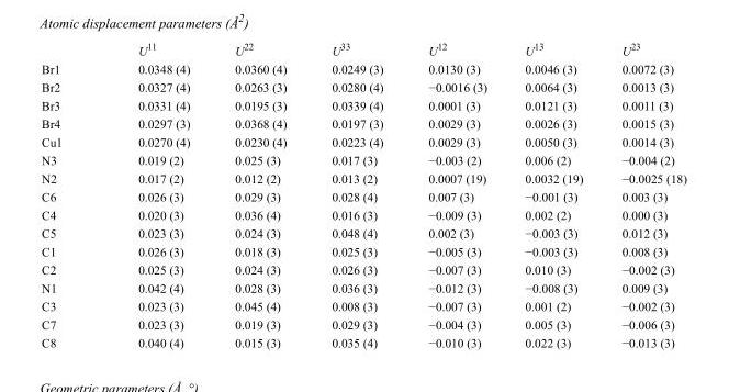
<table><thead><tr><td></td><td>U<sup>11</sup></td><td>U<sup>22</sup></td><td>U<sup>33</sup></td><td>U<sup>12</sup></td><td>U<sup>13</sup></td><td>U<sup>23</sup></td></tr></thead><tbody><tr><td>Br1</td><td>0.0348 (4)</td><td>0.0360 (4)</td><td>0.0249 (3)</td><td>0.0130 (3)</td><td>0.0046 (3)</td><td>0.0072 (3)</td></tr><tr><td>Br2</td><td>0.0327 (4)</td><td>0.0263 (3)</td><td>0.0280 (4)</td><td>−0.0016 (3)</td><td>0.0064 (3)</td><td>0.0013 (3)</td></tr><tr><td>Br3</td><td>0.0331 (4)</td><td>0.0195 (3)</td><td>0.0339 (4)</td><td>0.0001 (3)</td><td>0.0121 (3)</td><td>0.0011 (3)</td></tr><tr><td>Br4</td><td>0.0297 (3)</td><td>0.0368 (4)</td><td>0.0197 (3)</td><td>0.0029 (3)</td><td>0.0026 (3)</td><td>0.0015 (3)</td></tr><tr><td>Cu1</td><td>0.0270 (4)</td><td>0.0230 (4)</td><td>0.0223 (4)</td><td>0.0029 (3)</td><td>0.0050 (3)</td><td>0.0014 (3)</td></tr><tr><td>N3</td><td>0.019 (2)</td><td>0.025 (3)</td><td>0.017 (3)</td><td>−0.003 (2)</td><td>0.006 (2)</td><td>−0.004 (2)</td></tr><tr><td>N2</td><td>0.017 (2)</td><td>0.012 (2)</td><td>0.013 (2)</td><td>0.0007 (19)</td><td>0.0032 (19)</td><td>−0.0025 (18)</td></tr><tr><td>C6</td><td>0.026 (3)</td><td>0.029 (3)</td><td>0.028 (4)</td><td>0.007 (3)</td><td>−0.001 (3)</td><td>0.003 (3)</td></tr><tr><td>C4</td><td>0.020 (3)</td><td>0.036 (4)</td><td>0.016 (3)</td><td>−0.009 (3)</td><td>0.002 (2)</td><td>0.000 (3)</td></tr><tr><td>C5</td><td>0.023 (3)</td><td>0.024 (3)</td><td>0.048 (4)</td><td>0.002 (3)</td><td>−0.003 (3)</td><td>0.012 (3)</td></tr><tr><td>C1</td><td>0.026 (3)</td><td>0.018 (3)</td><td>0.025 (3)</td><td>−0.005 (3)</td><td>−0.003 (3)</td><td>0.008 (3)</td></tr><tr><td>C2</td><td>0.025 (3)</td><td>0.024 (3)</td><td>0.026 (3)</td><td>−0.007 (3)</td><td>0.010 (3)</td><td>−0.002 (3)</td></tr><tr><td>N1</td><td>0.042 (4)</td><td>0.028 (3)</td><td>0.036 (3)</td><td>−0.012 (3)</td><td>−0.008 (3)</td><td>0.009 (3)</td></tr><tr><td>C3</td><td>0.023 (3)</td><td>0.045 (4)</td><td>0.008 (3)</td><td>−0.007 (3)</td><td>0.001 (2)</td><td>−0.002 (3)</td></tr><tr><td>C7</td><td>0.023 (3)</td><td>0.019 (3)</td><td>0.029 (3)</td><td>−0.004 (3)</td><td>0.005 (3)</td><td>−0.006 (3)</td></tr><tr><td>C8</td><td>0.040 (4)</td><td>0.015 (3)</td><td>0.035 (4)</td><td>−0.010 (3)</td><td>0.022 (3)</td><td>−0.013 (3)</td></tr></tbody></table>